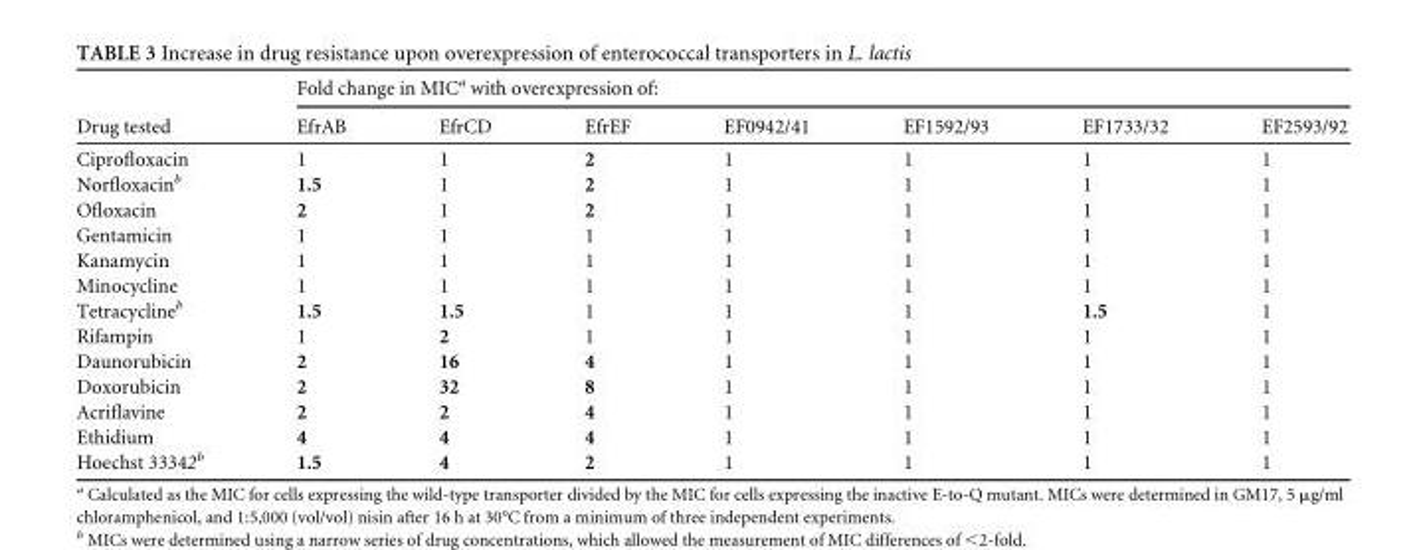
<table><thead><tr><td rowspan="2">Drug tested</td><td colspan="7">Fold change in MIC<sup>a</sup> with overexpression of:</td></tr><tr><td>EfrAB</td><td>EfrCD</td><td>EfrEF</td><td>EF0942/41</td><td>EF1592/93</td><td>EF1733/32</td><td>EF2593/92</td></tr></thead><tbody><tr><td>Ciprofloxacin</td><td>1</td><td>1</td><td>2</td><td>1</td><td>1</td><td>1</td><td>1</td></tr><tr><td>Norfloxacin<sup>b</sup></td><td>1.5</td><td>1</td><td>2</td><td>1</td><td>1</td><td>1</td><td>1</td></tr><tr><td>Ofloxacin</td><td>2</td><td>1</td><td>2</td><td>1</td><td>1</td><td>1</td><td>1</td></tr><tr><td>Gentamicin</td><td>1</td><td>1</td><td>1</td><td>1</td><td>1</td><td>1</td><td>1</td></tr><tr><td>Kanamycin</td><td>1</td><td>1</td><td>1</td><td>1</td><td>1</td><td>1</td><td>1</td></tr><tr><td>Minocycline</td><td>1</td><td>1</td><td>1</td><td>1</td><td>1</td><td>1</td><td>1</td></tr><tr><td>Tetracycline<sup>b</sup></td><td>1.5</td><td>1.5</td><td>1</td><td>1</td><td>1</td><td>1.5</td><td>1</td></tr><tr><td>Rifampin</td><td>1</td><td>2</td><td>1</td><td>1</td><td>1</td><td>1</td><td>1</td></tr><tr><td>Daunorubicin</td><td>2</td><td>16</td><td>4</td><td>1</td><td>1</td><td>1</td><td>1</td></tr><tr><td>Doxorubicin</td><td>2</td><td>32</td><td>8</td><td>1</td><td>1</td><td>1</td><td>1</td></tr><tr><td>Acriflavine</td><td>2</td><td>2</td><td>4</td><td>1</td><td>1</td><td>1</td><td>1</td></tr><tr><td>Ethidium</td><td>4</td><td>4</td><td>4</td><td>1</td><td>1</td><td>1</td><td>1</td></tr><tr><td>Hoechst 33342<sup>b</sup></td><td>1.5</td><td>4</td><td>2</td><td>1</td><td>1</td><td>1</td><td>1</td></tr></tbody></table>